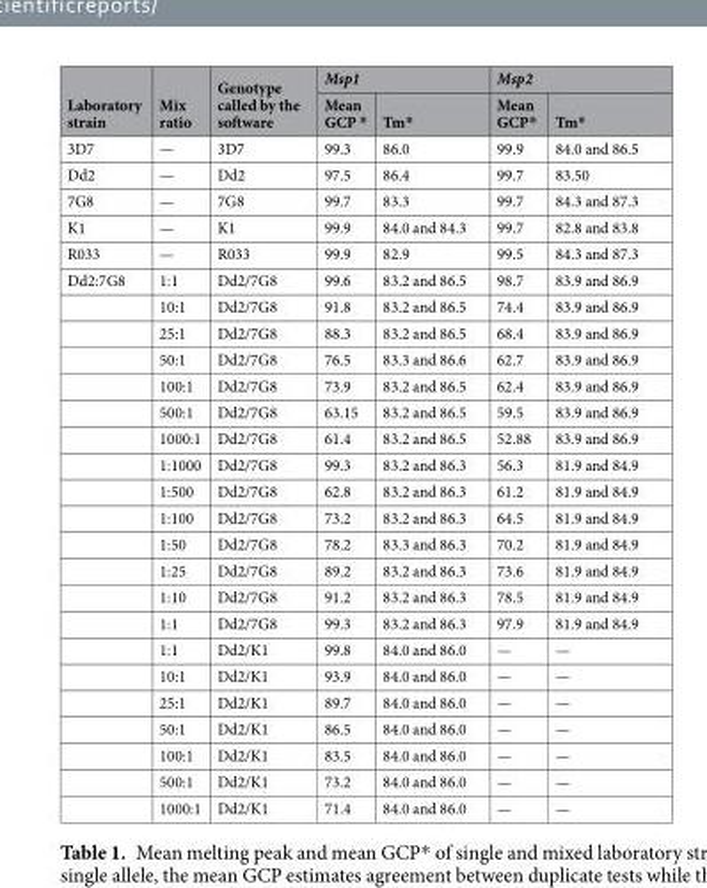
<table><thead><tr><td rowspan="2">Laboratory strain</td><td rowspan="2">Mix ratio</td><td rowspan="2">Genotype called by the software</td><td colspan="2">Msp1</td><td colspan="2">Msp2</td></tr><tr><td>Mean GCP *</td><td>Tm*</td><td>Mean GCP*</td><td>Tm*</td></tr></thead><tbody><tr><td>3D7</td><td>—</td><td>3D7</td><td>99.3</td><td>86.0</td><td>99.9</td><td>84.0 and 86.5</td></tr><tr><td>Dd2</td><td>—</td><td>Dd2</td><td>97.5</td><td>86.4</td><td>99.7</td><td>83.50</td></tr><tr><td>7G8</td><td>—</td><td>7G8</td><td>99.7</td><td>83.3</td><td>99.7</td><td>84.3 and 87.3</td></tr><tr><td>K1</td><td>—</td><td>K1</td><td>99.9</td><td>84.0 and 84.3</td><td>99.7</td><td>82.8 and 83.8</td></tr><tr><td>R033</td><td>—</td><td>R033</td><td>99.9</td><td>82.9</td><td>99.5</td><td>84.3 and 87.3</td></tr><tr><td rowspan="21">Dd2:7G8</td><td>1:1</td><td>Dd2/7G8</td><td>99.6</td><td>83.2 and 86.5</td><td>98.7</td><td>83.9 and 86.9</td></tr><tr><td>10:1</td><td>Dd2/7G8</td><td>91.8</td><td>83.2 and 86.5</td><td>74.4</td><td>83.9 and 86.9</td></tr><tr><td>25:1</td><td>Dd2/7G8</td><td>88.3</td><td>83.2 and 86.5</td><td>68.4</td><td>83.9 and 86.9</td></tr><tr><td>50:1</td><td>Dd2/7G8</td><td>76.5</td><td>83.3 and 86.6</td><td>62.7</td><td>83.9 and 86.9</td></tr><tr><td>100:1</td><td>Dd2/7G8</td><td>73.9</td><td>83.2 and 86.5</td><td>62.4</td><td>83.9 and 86.9</td></tr><tr><td>500:1</td><td>Dd2/7G8</td><td>63.15</td><td>83.2 and 86.5</td><td>59.5</td><td>83.9 and 86.9</td></tr><tr><td>1000:1</td><td>Dd2/7G8</td><td>61.4</td><td>83.2 and 86.5</td><td>52.88</td><td>83.9 and 86.9</td></tr><tr><td>1:1000</td><td>Dd2/7G8</td><td>99.3</td><td>83.2 and 86.3</td><td>56.3</td><td>81.9 and 84.9</td></tr><tr><td>1:500</td><td>Dd2/7G8</td><td>62.8</td><td>83.2 and 86.3</td><td>61.2</td><td>81.9 and 84.9</td></tr><tr><td>1:100</td><td>Dd2/7G8</td><td>73.2</td><td>83.2 and 86.3</td><td>64.5</td><td>81.9 and 84.9</td></tr><tr><td>1:50</td><td>Dd2/7G8</td><td>78.2</td><td>83.3 and 86.3</td><td>70.2</td><td>81.9 and 84.9</td></tr><tr><td>1:25</td><td>Dd2/7G8</td><td>89.2</td><td>83.2 and 86.3</td><td>73.6</td><td>81.9 and 84.9</td></tr><tr><td>1:10</td><td>Dd2/7G8</td><td>91.2</td><td>83.2 and 86.3</td><td>78.5</td><td>81.9 and 84.9</td></tr><tr><td>1:1</td><td>Dd2/7G8</td><td>99.3</td><td>83.2 and 86.3</td><td>97.9</td><td>81.9 and 84.9</td></tr><tr><td>1:1</td><td>Dd2/K1</td><td>99.8</td><td>84.0 and 86.0</td><td>—</td><td>—</td></tr><tr><td>10:1</td><td>Dd2/K1</td><td>93.9</td><td>84.0 and 86.0</td><td>—</td><td>—</td></tr><tr><td>25:1</td><td>Dd2/K1</td><td>89.7</td><td>84.0 and 86.0</td><td>—</td><td>—</td></tr><tr><td>50:1</td><td>Dd2/K1</td><td>86.5</td><td>84.0 and 86.0</td><td>—</td><td>—</td></tr><tr><td>100:1</td><td>Dd2/K1</td><td>83.5</td><td>84.0 and 86.0</td><td>—</td><td>—</td></tr><tr><td>500:1</td><td>Dd2/K1</td><td>73.2</td><td>84.0 and 86.0</td><td>—</td><td>—</td></tr><tr><td>1000:1</td><td>Dd2/K1</td><td>71.4</td><td>84.0 and 86.0</td><td>—</td><td>—</td></tr></tbody></table>